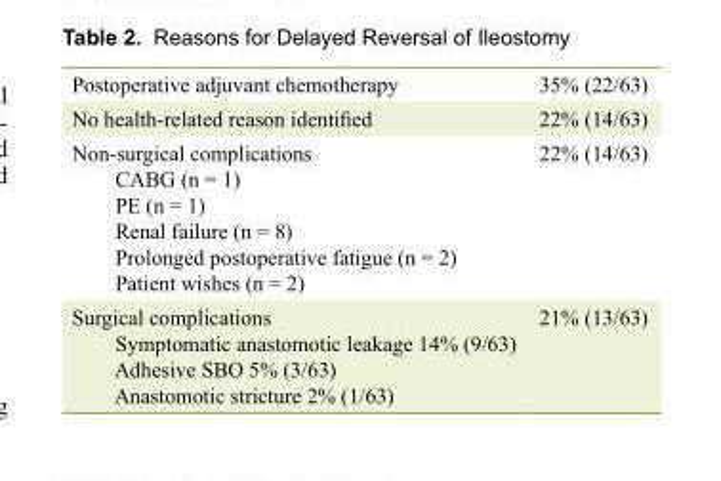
<table><tbody><tr><td>Postoperative adjuvant chemotherapy</td><td>35% (22/63)</td></tr><tr><td>No health-related reason identified</td><td>22% (14/63)</td></tr><tr><td>Non-surgical complications CABG (n = 1) PE (n = 1) Renal failure (n = 8) Prolonged postoperative fatigue (n = 2) Patient wishes (n = 2)</td><td>22% (14/63)</td></tr><tr><td>Surgical complications Symptomatic anastomotic leakage 14% (9/63) Adhesive SBO 5% (3/63) Anastomotic stricture 2% (1/63)</td><td>21% (13/63)</td></tr></tbody></table>